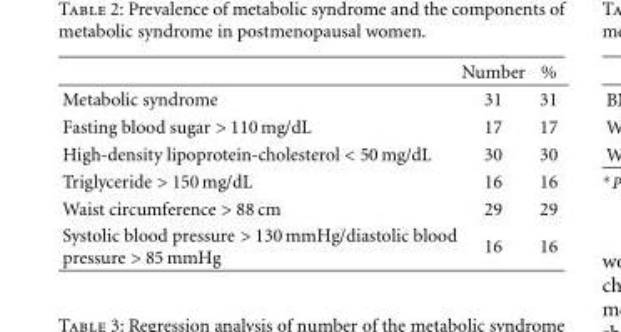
<table><thead><tr><td></td><td>Number</td><td>%</td></tr></thead><tbody><tr><td>Metabolic syndrome</td><td>31</td><td>31</td></tr><tr><td>Fasting blood sugar &gt; 110 mg/dL</td><td>17</td><td>17</td></tr><tr><td>High-density lipoprotein-cholesterol &lt; 50 mg/dL</td><td>30</td><td>30</td></tr><tr><td>Triglyceride &gt; 150 mg/dL</td><td>16</td><td>16</td></tr><tr><td>Waist circumference &gt; 88 cm</td><td>29</td><td>29</td></tr><tr><td>Systolic blood pressure &gt; 130 mmHg/diastolic blood pressure &gt; 85 mmHg</td><td>16</td><td>16</td></tr></tbody></table>